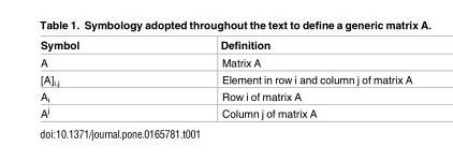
<table><thead><tr><td>Symbol</td><td>Definition</td></tr></thead><tbody><tr><td>A</td><td>Matrix A</td></tr><tr><td>[A]<sub>i,j</sub></td><td>Element in row i and column j of matrix A</td></tr><tr><td>A<sub>i</sub></td><td>Row i of matrix A</td></tr><tr><td>A<sup>j</sup></td><td>Column j of matrix A</td></tr></tbody></table>